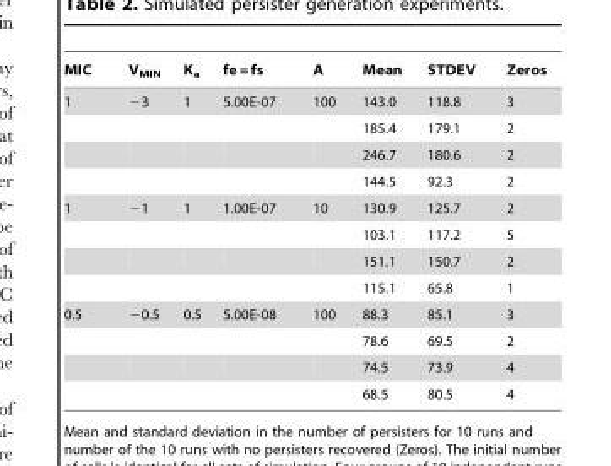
<table><thead><tr><td>MIC</td><td>V<sub>MIN</sub></td><td>K<sub>a</sub></td><td>fe = fs</td><td>A</td><td>Mean</td><td>STDEV</td><td>Zeros</td></tr></thead><tbody><tr><td rowspan="4">1</td><td>−3</td><td>1</td><td>5.00E-07</td><td>100</td><td>143.0</td><td>118.8</td><td>3</td></tr><tr><td></td><td></td><td></td><td></td><td>185.4</td><td>179.1</td><td>2</td></tr><tr><td></td><td></td><td></td><td></td><td>246.7</td><td>180.6</td><td>2</td></tr><tr><td></td><td></td><td></td><td></td><td>144.5</td><td>92.3</td><td>2</td></tr><tr><td rowspan="4">1</td><td>−1</td><td>1</td><td>1.00E-07</td><td>10</td><td>130.9</td><td>125.7</td><td>2</td></tr><tr><td></td><td></td><td></td><td></td><td>103.1</td><td>117.2</td><td>5</td></tr><tr><td></td><td></td><td></td><td></td><td>151.1</td><td>150.7</td><td>2</td></tr><tr><td></td><td></td><td></td><td></td><td>115.1</td><td>65.8</td><td>1</td></tr><tr><td rowspan="4">0.5</td><td>−0.5</td><td>0.5</td><td>5.00E-08</td><td>100</td><td>88.3</td><td>85.1</td><td>3</td></tr><tr><td></td><td></td><td></td><td></td><td>78.6</td><td>69.5</td><td>2</td></tr><tr><td></td><td></td><td></td><td></td><td>74.5</td><td>73.9</td><td>4</td></tr><tr><td></td><td></td><td></td><td></td><td>68.5</td><td>80.5</td><td>4</td></tr></tbody></table>